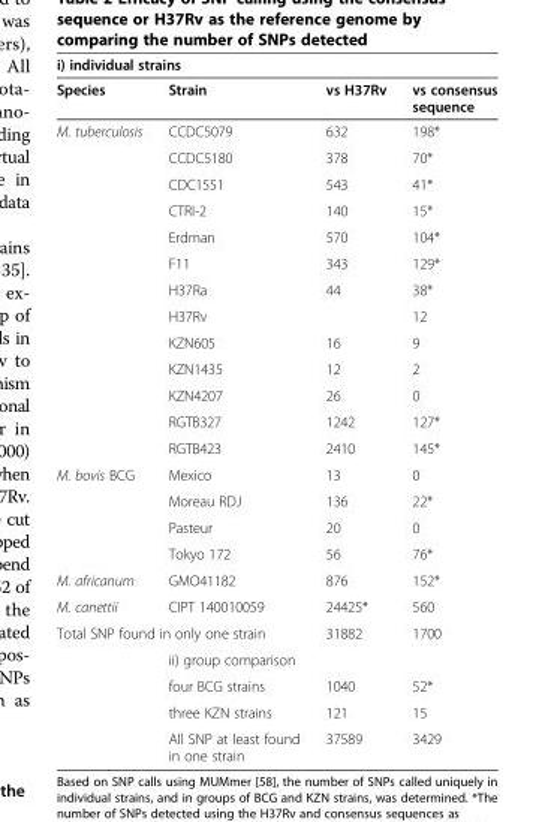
<table><thead><tr><td colspan="4">i) individual strains</td></tr><tr><td>Species</td><td>Strain</td><td>vs H37Rv</td><td>vs consensus sequence</td></tr></thead><tbody><tr><td rowspan="13">M. tuberculosis</td><td>CCDC5079</td><td>632</td><td>198*</td></tr><tr><td>CCDC5180</td><td>378</td><td>70*</td></tr><tr><td>CDC1551</td><td>543</td><td>41*</td></tr><tr><td>CTRI-2</td><td>140</td><td>15*</td></tr><tr><td>Erdman</td><td>570</td><td>104*</td></tr><tr><td>F11</td><td>343</td><td>129*</td></tr><tr><td>H37Ra</td><td>44</td><td>38*</td></tr><tr><td>H37Rv</td><td></td><td>12</td></tr><tr><td>KZN605</td><td>16</td><td>9</td></tr><tr><td>KZN1435</td><td>12</td><td>2</td></tr><tr><td>KZN4207</td><td>26</td><td>0</td></tr><tr><td>RGTB327</td><td>1242</td><td>127*</td></tr><tr><td>RGTB423</td><td>2410</td><td>145*</td></tr><tr><td rowspan="4">M. bovis BCG</td><td>Mexico</td><td>13</td><td>0</td></tr><tr><td>Moreau RDJ</td><td>136</td><td>22*</td></tr><tr><td>Pasteur</td><td>20</td><td>0</td></tr><tr><td>Tokyo 172</td><td>56</td><td>76*</td></tr><tr><td>M. africanum</td><td>GMO41182</td><td>876</td><td>152*</td></tr><tr><td>M. canettii</td><td>CIPT 140010059</td><td>24425*</td><td>560</td></tr><tr><td colspan="2">Total SNP found in only one strain</td><td>31882</td><td>1700</td></tr><tr><td></td><td>ii) group comparison</td><td></td><td></td></tr><tr><td></td><td>four BCG strains</td><td>1040</td><td>52*</td></tr><tr><td></td><td>three KZN strains</td><td>121</td><td>15</td></tr><tr><td></td><td>All SNP at least found in one strain</td><td>37589</td><td>3429</td></tr></tbody></table>